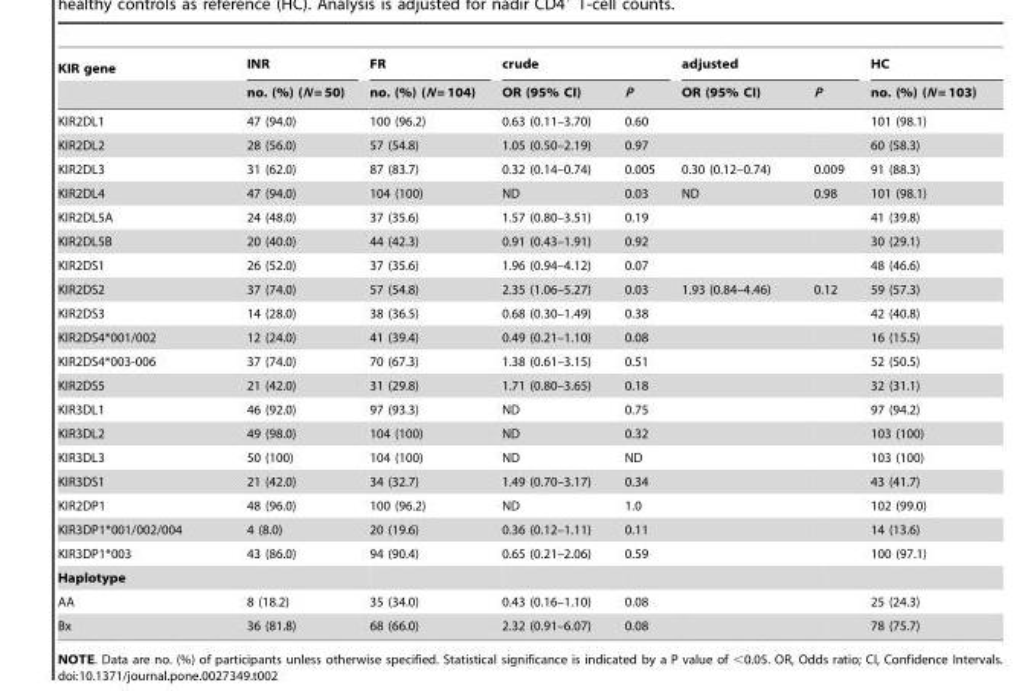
<table><thead><tr><td rowspan="2">KIR gene</td><td rowspan="2">INR no. (%) (N = 50)</td><td rowspan="2">FR no. (%) (N = 104)</td><td colspan="2">crude</td><td colspan="2">adjusted</td><td rowspan="2">HC no. (%) (N = 103)</td></tr><tr><td>OR (95% CI)</td><td>P</td><td>OR (95% CI)</td><td>P</td></tr></thead><tbody><tr><td>KIR2DL1</td><td>47 (94.0)</td><td>100 (96.2)</td><td>0.63 (0.11–3.70)</td><td>0.60</td><td></td><td></td><td>101 (98.1)</td></tr><tr><td>KIR2DL2</td><td>28 (56.0)</td><td>57 (54.8)</td><td>1.05 (0.50–2.19)</td><td>0.97</td><td></td><td></td><td>60 (58.3)</td></tr><tr><td>KIR2DL3</td><td>31 (62.0)</td><td>87 (83.7)</td><td>0.32 (0.14–0.74)</td><td>0.005</td><td>0.30 (0.12–0.74)</td><td>0.009</td><td>91 (88.3)</td></tr><tr><td>KIR2DL4</td><td>47 (94.0)</td><td>104 (100)</td><td>ND</td><td>0.03</td><td>ND</td><td>0.98</td><td>101 (98.1)</td></tr><tr><td>KIR2DL5A</td><td>24 (48.0)</td><td>37 (35.6)</td><td>1.57 (0.80–3.51)</td><td>0.19</td><td></td><td></td><td>41 (39.8)</td></tr><tr><td>KIR2DL5B</td><td>20 (40.0)</td><td>44 (42.3)</td><td>0.91 (0.43–1.91)</td><td>0.92</td><td></td><td></td><td>30 (29.1)</td></tr><tr><td>KIR2DS1</td><td>26 (52.0)</td><td>37 (35.6)</td><td>1.96 (0.94–4.12)</td><td>0.07</td><td></td><td></td><td>48 (46.6)</td></tr><tr><td>KIR2DS2</td><td>37 (74.0)</td><td>57 (54.8)</td><td>2.35 (1.06–5.27)</td><td>0.03</td><td>1.93 (0.84–4.46)</td><td>0.12</td><td>59 (57.3)</td></tr><tr><td>KIR2DS3</td><td>14 (28.0)</td><td>38 (36.5)</td><td>0.68 (0.30–1.49)</td><td>0.38</td><td></td><td></td><td>42 (40.8)</td></tr><tr><td>KIR2DS4*001/002</td><td>12 (24.0)</td><td>41 (39.4)</td><td>0.49 (0.21–1.10)</td><td>0.08</td><td></td><td></td><td>16 (15.5)</td></tr><tr><td>KIR2DS4*003-006</td><td>37 (74.0)</td><td>70 (67.3)</td><td>1.38 (0.61–3.15)</td><td>0.51</td><td></td><td></td><td>52 (50.5)</td></tr><tr><td>KIR2DS5</td><td>21 (42.0)</td><td>31 (29.8)</td><td>1.71 (0.80–3.65)</td><td>0.18</td><td></td><td></td><td>32 (31.1)</td></tr><tr><td>KIR3DL1</td><td>46 (92.0)</td><td>97 (93.3)</td><td>ND</td><td>0.75</td><td></td><td></td><td>97 (94.2)</td></tr><tr><td>KIR3DL2</td><td>49 (98.0)</td><td>104 (100)</td><td>ND</td><td>0.32</td><td></td><td></td><td>103 (100)</td></tr><tr><td>KIR3DL3</td><td>50 (100)</td><td>104 (100)</td><td>ND</td><td>ND</td><td></td><td></td><td>103 (100)</td></tr><tr><td>KIR3DS1</td><td>21 (42.0)</td><td>34 (32.7)</td><td>1.49 (0.70–3.17)</td><td>0.34</td><td></td><td></td><td>43 (41.7)</td></tr><tr><td>KIR2DP1</td><td>48 (96.0)</td><td>100 (96.2)</td><td>ND</td><td>1.0</td><td></td><td></td><td>102 (99.0)</td></tr><tr><td>KIR3DP1*001/002/004</td><td>4 (8.0)</td><td>20 (19.6)</td><td>0.36 (0.12–1.11)</td><td>0.11</td><td></td><td></td><td>14 (13.6)</td></tr><tr><td>KIR3DP1*003</td><td>43 (86.0)</td><td>94 (90.4)</td><td>0.65 (0.21–2.06)</td><td>0.59</td><td></td><td></td><td>100 (97.1)</td></tr><tr><td colspan="8">Haplotype</td></tr><tr><td>AA</td><td>8 (18.2)</td><td>35 (34.0)</td><td>0.43 (0.16–1.10)</td><td>0.08</td><td></td><td></td><td>25 (24.3)</td></tr><tr><td>Bx</td><td>36 (81.8)</td><td>68 (66.0)</td><td>2.32 (0.91–6.07)</td><td>0.08</td><td></td><td></td><td>78 (75.7)</td></tr></tbody></table>